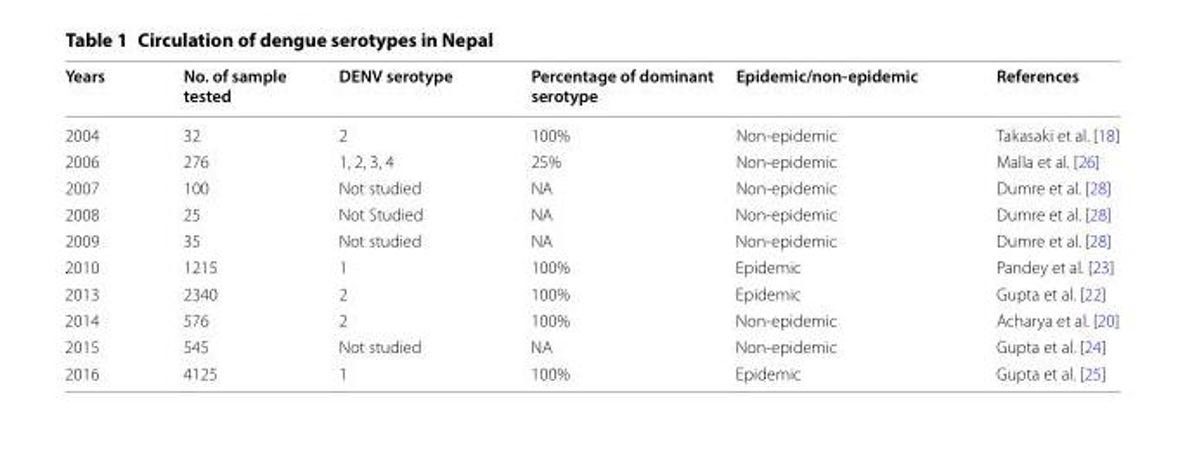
<table><thead><tr><td>Years</td><td>No. of sample tested</td><td>DENV serotype</td><td>Percentage of dominant serotype</td><td>Epidemic/non-epidemic</td><td>References</td></tr></thead><tbody><tr><td>2004</td><td>32</td><td>2</td><td>100%</td><td>Non-epidemic</td><td>Takasaki et al. [18]</td></tr><tr><td>2006</td><td>276</td><td>1, 2, 3, 4</td><td>25%</td><td>Non-epidemic</td><td>Malla et al. [26]</td></tr><tr><td>2007</td><td>100</td><td>Not studied</td><td>NA</td><td>Non-epidemic</td><td>Dumre et al. [28]</td></tr><tr><td>2008</td><td>25</td><td>Not Studied</td><td>NA</td><td>Non-epidemic</td><td>Dumre et al. [28]</td></tr><tr><td>2009</td><td>35</td><td>Not studied</td><td>NA</td><td>Non-epidemic</td><td>Dumre et al. [28]</td></tr><tr><td>2010</td><td>1215</td><td>1</td><td>100%</td><td>Epidemic</td><td>Pandey et al. [23]</td></tr><tr><td>2013</td><td>2340</td><td>2</td><td>100%</td><td>Epidemic</td><td>Gupta et al. [22]</td></tr><tr><td>2014</td><td>576</td><td>2</td><td>100%</td><td>Non-epidemic</td><td>Acharya et al. [20]</td></tr><tr><td>2015</td><td>545</td><td>Not studied</td><td>NA</td><td>Non-epidemic</td><td>Gupta et al. [24]</td></tr><tr><td>2016</td><td>4125</td><td>1</td><td>100%</td><td>Epidemic</td><td>Gupta et al. [25]</td></tr></tbody></table>